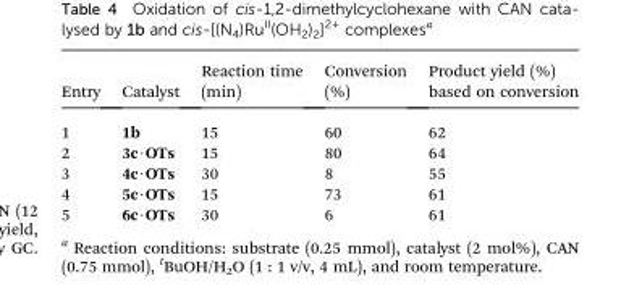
<table><thead><tr><td>Entry</td><td>Catalyst</td><td>Reaction time (min)</td><td>Conversion (%)</td><td>Product yield (%) based on conversion</td></tr></thead><tbody><tr><td>1</td><td>1b</td><td>15</td><td>60</td><td>62</td></tr><tr><td>2</td><td>3c·OTs</td><td>15</td><td>80</td><td>64</td></tr><tr><td>3</td><td>4c·OTs</td><td>30</td><td>8</td><td>55</td></tr><tr><td>4</td><td>5c·OTs</td><td>15</td><td>73</td><td>61</td></tr><tr><td>5</td><td>6c·OTs</td><td>30</td><td>6</td><td>61</td></tr></tbody></table>